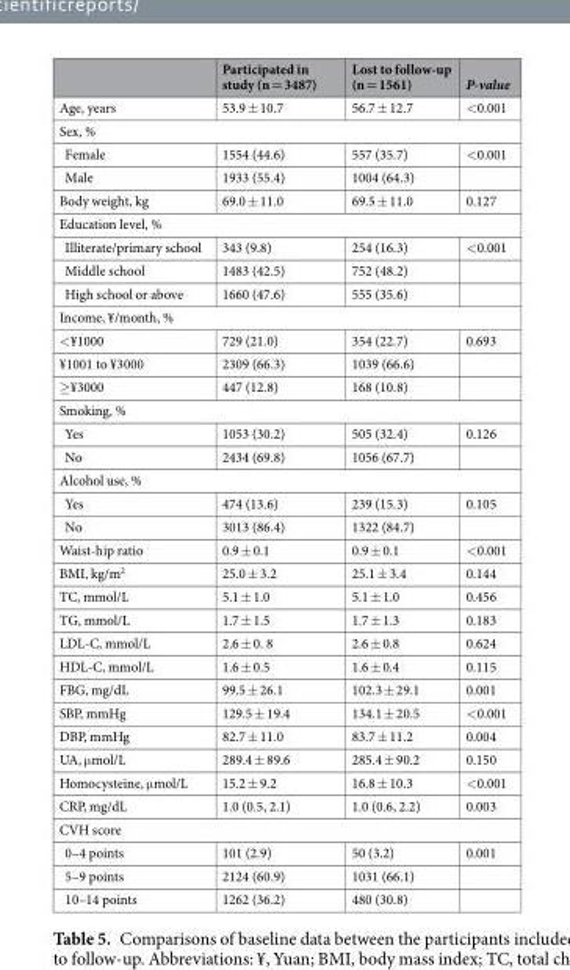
<table><thead><tr><td></td><td>Participated in study (n = 3487)</td><td>Lost to follow-up (n = 1561)</td><td>P-value</td></tr></thead><tbody><tr><td>Age, years</td><td>53.9 ± 10.7</td><td>56.7 ± 12.7</td><td>&lt;0.001</td></tr><tr><td colspan="4">Sex, %</td></tr><tr><td>Female</td><td>1554 (44.6)</td><td>557 (35.7)</td><td>&lt;0.001</td></tr><tr><td>Male</td><td>1933 (55.4)</td><td>1004 (64.3)</td><td></td></tr><tr><td>Body weight, kg</td><td>69.0 ± 11.0</td><td>69.5 ± 11.0</td><td>0.127</td></tr><tr><td colspan="4">Education level, %</td></tr><tr><td>Illiterate/primary school</td><td>343 (9.8)</td><td>254 (16.3)</td><td>&lt;0.001</td></tr><tr><td>Middle school</td><td>1483 (42.5)</td><td>752 (48.2)</td><td></td></tr><tr><td>High school or above</td><td>1660 (47.6)</td><td>555 (35.6)</td><td></td></tr><tr><td colspan="4">Income, ¥/month, %</td></tr><tr><td>&lt;¥1000</td><td>729 (21.0)</td><td>354 (22.7)</td><td>0.693</td></tr><tr><td>¥1001 to ¥3000</td><td>2309 (66.3)</td><td>1039 (66.6)</td><td></td></tr><tr><td>≥¥3000</td><td>447 (12.8)</td><td>168 (10.8)</td><td></td></tr><tr><td colspan="4">Smoking, %</td></tr><tr><td>Yes</td><td>1053 (30.2)</td><td>505 (32.4)</td><td>0.126</td></tr><tr><td>No</td><td>2434 (69.8)</td><td>1056 (67.7)</td><td></td></tr><tr><td colspan="4">Alcohol use, %</td></tr><tr><td>Yes</td><td>474 (13.6)</td><td>239 (15.3)</td><td>0.105</td></tr><tr><td>No</td><td>3013 (86.4)</td><td>1322 (84.7)</td><td></td></tr><tr><td>Waist-hip ratio</td><td>0.9 ± 0.1</td><td>0.9 ± 0.1</td><td>&lt;0.001</td></tr><tr><td>BMI, kg/m<sup>2</sup></td><td>25.0 ± 3.2</td><td>25.1 ± 3.4</td><td>0.144</td></tr><tr><td>TC, mmol/L</td><td>5.1 ± 1.0</td><td>5.1 ± 1.0</td><td>0.456</td></tr><tr><td>TG, mmol/L</td><td>1.7 ± 1.5</td><td>1.7 ± 1.3</td><td>0.183</td></tr><tr><td>LDL-C, mmol/L</td><td>2.6 ± 0. 8</td><td>2.6 ± 0.8</td><td>0.624</td></tr><tr><td>HDL-C, mmol/L</td><td>1.6 ± 0.5</td><td>1.6 ± 0.4</td><td>0.115</td></tr><tr><td>FBG, mg/dL</td><td>99.5 ± 26.1</td><td>102.3 ± 29.1</td><td>0.001</td></tr><tr><td>SBP, mmHg</td><td>129.5 ± 19.4</td><td>134.1 ± 20.5</td><td>&lt;0.001</td></tr><tr><td>DBP, mmHg</td><td>82.7 ± 11.0</td><td>83.7 ± 11.2</td><td>0.004</td></tr><tr><td>UA, μmol/L</td><td>289.4 ± 89.6</td><td>285.4 ± 90.2</td><td>0.150</td></tr><tr><td>Homocysteine, μmol/L</td><td>15.2 ± 9.2</td><td>16.8 ± 10.3</td><td>&lt;0.001</td></tr><tr><td>CRP, mg/dL</td><td>1.0 (0.5, 2.1)</td><td>1.0 (0.6, 2.2)</td><td>0.003</td></tr><tr><td colspan="4">CVH score</td></tr><tr><td>0–4 points</td><td>101 (2.9)</td><td>50 (3.2)</td><td>0.001</td></tr><tr><td>5–9 points</td><td>2124 (60.9)</td><td>1031 (66.1)</td><td></td></tr><tr><td>10–14 points</td><td>1262 (36.2)</td><td>480 (30.8)</td><td></td></tr></tbody></table>